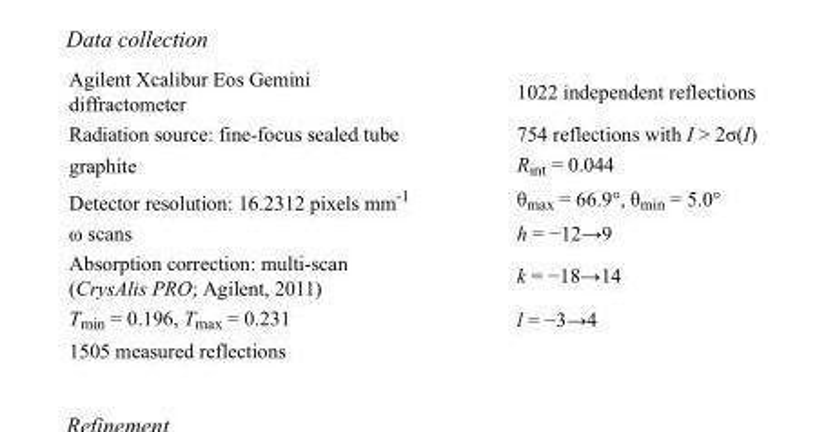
<table><tbody><tr><td>Agilent Xcalibur Eos Gemini diffractometer</td><td>1022 independent reflections</td></tr><tr><td>Radiation source: fine-focus sealed tube</td><td>754 reflections with I &gt; 2σ(I)</td></tr><tr><td>graphite</td><td>R<sub>int</sub> = 0.044</td></tr><tr><td>Detector resolution: 16.2312 pixels mm<sup>-1</sup></td><td>θ<sub>max</sub> = 66.9°, θ<sub>min</sub> = 5.0°</td></tr><tr><td>ω scans</td><td>h = −12→9</td></tr><tr><td>Absorption correction: multi-scan (CrysAlis PRO; Agilent, 2011)</td><td>k = −18→14</td></tr><tr><td>T<sub>min</sub> = 0.196, T<sub>max</sub> = 0.231</td><td>l = −3→4</td></tr><tr><td>1505 measured reflections</td><td></td></tr></tbody></table>